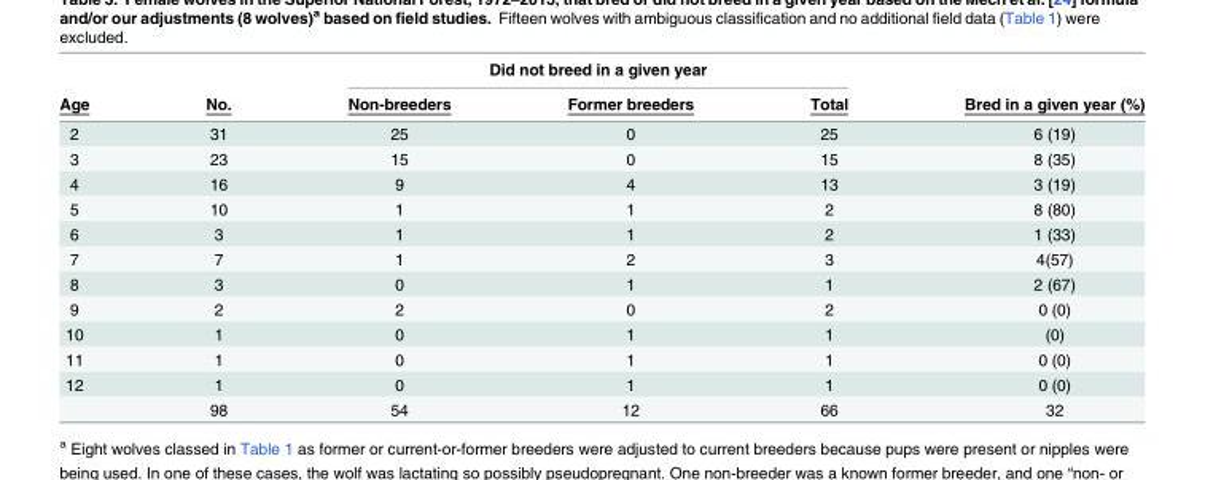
<table><thead><tr><td rowspan="2">Age</td><td rowspan="2">No.</td><td colspan="3">Did not breed in a given year</td><td rowspan="2">Bred in a given year (%)</td></tr><tr><td>Non-breeders</td><td>Former breeders</td><td>Total</td></tr></thead><tbody><tr><td>2</td><td>31</td><td>25</td><td>0</td><td>25</td><td>6 (19)</td></tr><tr><td>3</td><td>23</td><td>15</td><td>0</td><td>15</td><td>8 (35)</td></tr><tr><td>4</td><td>16</td><td>9</td><td>4</td><td>13</td><td>3 (19)</td></tr><tr><td>5</td><td>10</td><td>1</td><td>1</td><td>2</td><td>8 (80)</td></tr><tr><td>6</td><td>3</td><td>1</td><td>1</td><td>2</td><td>1 (33)</td></tr><tr><td>7</td><td>7</td><td>1</td><td>2</td><td>3</td><td>4(57)</td></tr><tr><td>8</td><td>3</td><td>0</td><td>1</td><td>1</td><td>2 (67)</td></tr><tr><td>9</td><td>2</td><td>2</td><td>0</td><td>2</td><td>0 (0)</td></tr><tr><td>10</td><td>1</td><td>0</td><td>1</td><td>1</td><td>(0)</td></tr><tr><td>11</td><td>1</td><td>0</td><td>1</td><td>1</td><td>0 (0)</td></tr><tr><td rowspan="2">12</td><td>1</td><td>0</td><td>1</td><td>1</td><td>0 (0)</td></tr><tr><td>98</td><td>54</td><td>12</td><td>66</td><td>32</td></tr></tbody></table>